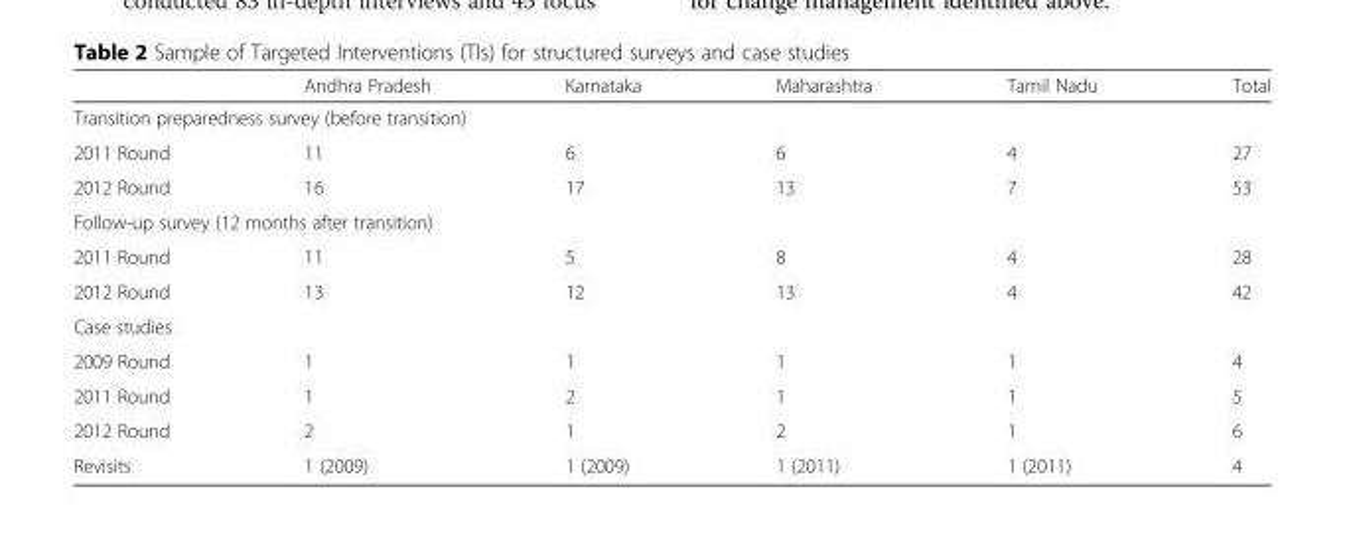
<table><thead><tr><td></td><td>Andhra Pradesh</td><td>Karnataka</td><td>Maharashtra</td><td>Tamil Nadu</td><td>Total</td></tr></thead><tbody><tr><td colspan="6">Transition preparedness survey (before transition)</td></tr><tr><td>2011 Round</td><td>11</td><td>6</td><td>6</td><td>4</td><td>27</td></tr><tr><td>2012 Round</td><td>16</td><td>17</td><td>13</td><td>7</td><td>53</td></tr><tr><td colspan="6">Follow-up survey (12 months after transition)</td></tr><tr><td>2011 Round</td><td>11</td><td>5</td><td>8</td><td>4</td><td>28</td></tr><tr><td>2012 Round</td><td>13</td><td>12</td><td>13</td><td>4</td><td>42</td></tr><tr><td colspan="6">Case studies</td></tr><tr><td>2009 Round</td><td>1</td><td>1</td><td>1</td><td>1</td><td>4</td></tr><tr><td>2011 Round</td><td>1</td><td>2</td><td>1</td><td>1</td><td>5</td></tr><tr><td>2012 Round</td><td>2</td><td>1</td><td>2</td><td>1</td><td>6</td></tr><tr><td>Revisits</td><td>1 (2009)</td><td>1 (2009)</td><td>1 (2011)</td><td>1 (2011)</td><td>4</td></tr></tbody></table>